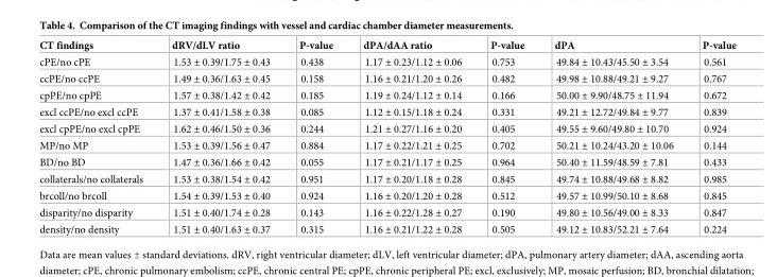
<table><thead><tr><td>CT findings</td><td>dRV/dLV ratio</td><td>P-value</td><td>dPA/dAA ratio</td><td>P-value</td><td>dPA</td><td>P-value</td></tr></thead><tbody><tr><td>cPE/no cPE</td><td>1.53 ± 0.39/1.75 ± 0.43</td><td>0.438</td><td>1.17 ± 0.23/1.12 ± 0.06</td><td>0.753</td><td>49.84 ± 10.43/45.50 ± 3.54</td><td>0.561</td></tr><tr><td>ccPE/no ccPE</td><td>1.49 ± 0.36/1.63 ± 0.45</td><td>0.158</td><td>1.16 ± 0.21/1.20 ± 0.26</td><td>0.482</td><td>49.98 ± 10.88/49.21 ± 9.27</td><td>0.767</td></tr><tr><td>cpPE/no cpPE</td><td>1.57 ± 0.38/1.42 ± 0.42</td><td>0.185</td><td>1.19 ± 0.24/1.12 ± 0.14</td><td>0.166</td><td>50.00 ± 9.90/48.75 ± 11.94</td><td>0.672</td></tr><tr><td>excl ccPE/no excl ccPE</td><td>1.37 ± 0.41/1.58 ± 0.38</td><td>0.085</td><td>1.12 ± 0.15/1.18 ± 0.24</td><td>0.331</td><td>49.21 ± 12.72/49.84 ± 9.77</td><td>0.839</td></tr><tr><td>excl cpPE/no excl cpPE</td><td>1.62 ± 0.46/1.50 ± 0.36</td><td>0.244</td><td>1.21 ± 0.27/1.16 ± 0.20</td><td>0.405</td><td>49.55 ± 9.60/49.80 ± 10.70</td><td>0.924</td></tr><tr><td>MP/no MP</td><td>1.53 ± 0.39/1.56 ± 0.47</td><td>0.884</td><td>1.17 ± 0.22/1.21 ± 0.25</td><td>0.702</td><td>50.21 ± 10.24/43.20 ± 10.06</td><td>0.144</td></tr><tr><td>BD/no BD</td><td>1.47 ± 0.36/1.66 ± 0.42</td><td>0.055</td><td>1.17 ± 0.21/1.17 ± 0.25</td><td>0.964</td><td>50.40 ± 11.59/48.59 ± 7.81</td><td>0.433</td></tr><tr><td>collaterals/no collaterals</td><td>1.53 ± 0.38/1.54 ± 0.42</td><td>0.951</td><td>1.17 ± 0.20/1.18 ± 0.28</td><td>0.845</td><td>49.74 ± 10.88/49.68 ± 8.82</td><td>0.985</td></tr><tr><td>brcoll/no brcoll</td><td>1.54 ± 0.39/1.53 ± 0.40</td><td>0.924</td><td>1.16 ± 0.20/1.20 ± 0.28</td><td>0.512</td><td>49.57 ± 10.99/50.10 ± 8.68</td><td>0.845</td></tr><tr><td>disparity/no disparity</td><td>1.51 ± 0.40/1.74 ± 0.28</td><td>0.143</td><td>1.16 ± 0.22/1.28 ± 0.27</td><td>0.190</td><td>49.80 ± 10.56/49.00 ± 8.33</td><td>0.847</td></tr><tr><td>density/no density</td><td>1.51 ± 0.40/1.63 ± 0.37</td><td>0.315</td><td>1.16 ± 0.21/1.22 ± 0.28</td><td>0.505</td><td>49.12 ± 10.83/52.21 ± 7.64</td><td>0.224</td></tr></tbody></table>